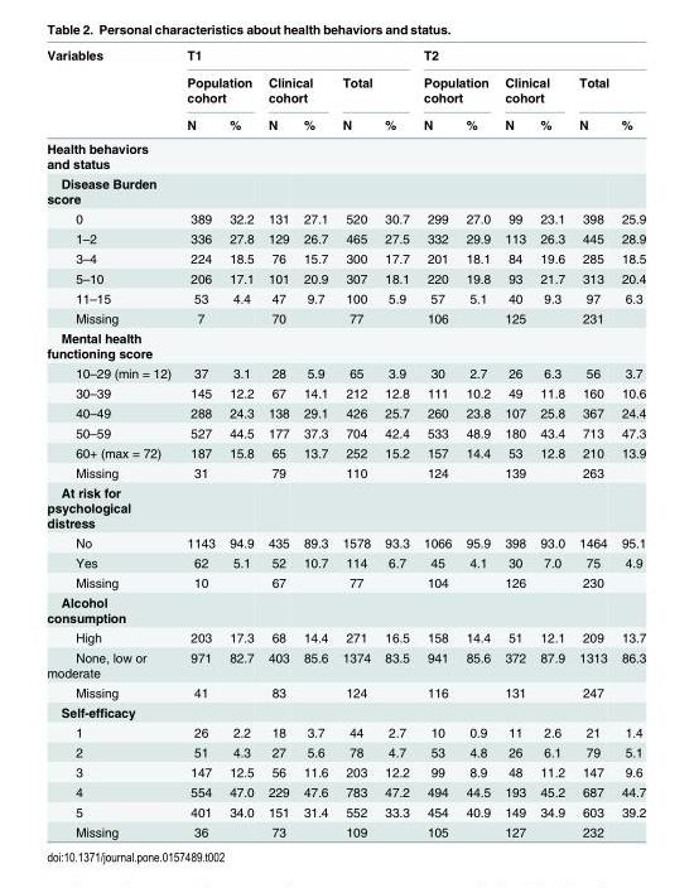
<table><thead><tr><td rowspan="3">Variables</td><td colspan="6">T1</td><td colspan="6">T2</td></tr><tr><td colspan="2">Population cohort</td><td colspan="2">Clinical cohort</td><td colspan="2">Total</td><td colspan="2">Population cohort</td><td colspan="2">Clinical cohort</td><td colspan="2">Total</td></tr><tr><td>N</td><td>%</td><td>N</td><td>%</td><td>N</td><td>%</td><td>N</td><td>%</td><td>N</td><td>%</td><td>N</td><td>%</td></tr></thead><tbody><tr><td colspan="13">Health behaviors and status</td></tr><tr><td colspan="13">Disease Burden score</td></tr><tr><td>0</td><td>389</td><td>32.2</td><td>131</td><td>27.1</td><td>520</td><td>30.7</td><td>299</td><td>27.0</td><td>99</td><td>23.1</td><td>398</td><td>25.9</td></tr><tr><td>1–2</td><td>336</td><td>27.8</td><td>129</td><td>26.7</td><td>465</td><td>27.5</td><td>332</td><td>29.9</td><td>113</td><td>26.3</td><td>445</td><td>28.9</td></tr><tr><td>3–4</td><td>224</td><td>18.5</td><td>76</td><td>15.7</td><td>300</td><td>17.7</td><td>201</td><td>18.1</td><td>84</td><td>19.6</td><td>285</td><td>18.5</td></tr><tr><td>5–10</td><td>206</td><td>17.1</td><td>101</td><td>20.9</td><td>307</td><td>18.1</td><td>220</td><td>19.8</td><td>93</td><td>21.7</td><td>313</td><td>20.4</td></tr><tr><td>11–15</td><td>53</td><td>4.4</td><td>47</td><td>9.7</td><td>100</td><td>5.9</td><td>57</td><td>5.1</td><td>40</td><td>9.3</td><td>97</td><td>6.3</td></tr><tr><td>Missing</td><td>7</td><td></td><td>70</td><td></td><td>77</td><td></td><td>106</td><td></td><td>125</td><td></td><td>231</td><td></td></tr><tr><td colspan="13">Mental health functioning score</td></tr><tr><td>10–29 (min = 12)</td><td>37</td><td>3.1</td><td>28</td><td>5.9</td><td>65</td><td>3.9</td><td>30</td><td>2.7</td><td>26</td><td>6.3</td><td>56</td><td>3.7</td></tr><tr><td>30–39</td><td>145</td><td>12.2</td><td>67</td><td>14.1</td><td>212</td><td>12.8</td><td>111</td><td>10.2</td><td>49</td><td>11.8</td><td>160</td><td>10.6</td></tr><tr><td>40–49</td><td>288</td><td>24.3</td><td>138</td><td>29.1</td><td>426</td><td>25.7</td><td>260</td><td>23.8</td><td>107</td><td>25.8</td><td>367</td><td>24.4</td></tr><tr><td>50–59</td><td>527</td><td>44.5</td><td>177</td><td>37.3</td><td>704</td><td>42.4</td><td>533</td><td>48.9</td><td>180</td><td>43.4</td><td>713</td><td>47.3</td></tr><tr><td>60+ (max = 72)</td><td>187</td><td>15.8</td><td>65</td><td>13.7</td><td>252</td><td>15.2</td><td>157</td><td>14.4</td><td>53</td><td>12.8</td><td>210</td><td>13.9</td></tr><tr><td>Missing</td><td>31</td><td></td><td>79</td><td></td><td>110</td><td></td><td>124</td><td></td><td>139</td><td></td><td>263</td><td></td></tr><tr><td colspan="13">At risk for psychological distress</td></tr><tr><td>No</td><td>1143</td><td>94.9</td><td>435</td><td>89.3</td><td>1578</td><td>93.3</td><td>1066</td><td>95.9</td><td>398</td><td>93.0</td><td>1464</td><td>95.1</td></tr><tr><td>Yes</td><td>62</td><td>5.1</td><td>52</td><td>10.7</td><td>114</td><td>6.7</td><td>45</td><td>4.1</td><td>30</td><td>7.0</td><td>75</td><td>4.9</td></tr><tr><td>Missing</td><td>10</td><td></td><td>67</td><td></td><td>77</td><td></td><td>104</td><td></td><td>126</td><td></td><td>230</td><td></td></tr><tr><td colspan="13">Alcohol consumption</td></tr><tr><td>High</td><td>203</td><td>17.3</td><td>68</td><td>14.4</td><td>271</td><td>16.5</td><td>158</td><td>14.4</td><td>51</td><td>12.1</td><td>209</td><td>13.7</td></tr><tr><td>None, low or moderate</td><td>971</td><td>82.7</td><td>403</td><td>85.6</td><td>1374</td><td>83.5</td><td>941</td><td>85.6</td><td>372</td><td>87.9</td><td>1313</td><td>86.3</td></tr><tr><td>Missing</td><td>41</td><td></td><td>83</td><td></td><td>124</td><td></td><td>116</td><td></td><td>131</td><td></td><td>247</td><td></td></tr><tr><td colspan="13">Self-efficacy</td></tr><tr><td>1</td><td>26</td><td>2.2</td><td>18</td><td>3.7</td><td>44</td><td>2.7</td><td>10</td><td>0.9</td><td>11</td><td>2.6</td><td>21</td><td>1.4</td></tr><tr><td>2</td><td>51</td><td>4.3</td><td>27</td><td>5.6</td><td>78</td><td>4.7</td><td>53</td><td>4.8</td><td>26</td><td>6.1</td><td>79</td><td>5.1</td></tr><tr><td>3</td><td>147</td><td>12.5</td><td>56</td><td>11.6</td><td>203</td><td>12.2</td><td>99</td><td>8.9</td><td>48</td><td>11.2</td><td>147</td><td>9.6</td></tr><tr><td>4</td><td>554</td><td>47.0</td><td>229</td><td>47.6</td><td>783</td><td>47.2</td><td>494</td><td>44.5</td><td>193</td><td>45.2</td><td>687</td><td>44.7</td></tr><tr><td>5</td><td>401</td><td>34.0</td><td>151</td><td>31.4</td><td>552</td><td>33.3</td><td>454</td><td>40.9</td><td>149</td><td>34.9</td><td>603</td><td>39.2</td></tr><tr><td>Missing</td><td>36</td><td></td><td>73</td><td></td><td>109</td><td></td><td>105</td><td></td><td>127</td><td></td><td>232</td><td></td></tr></tbody></table>